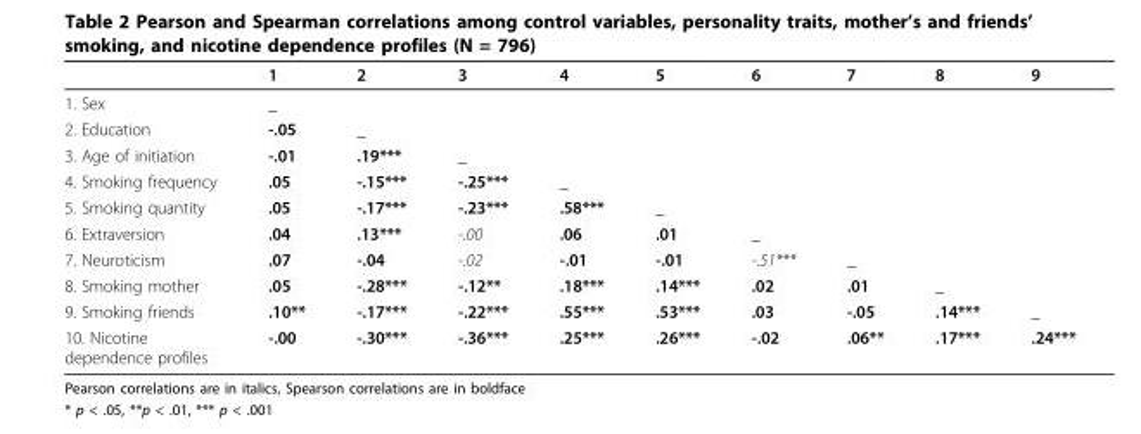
<table><thead><tr><td></td><td>1</td><td>2</td><td>3</td><td>4</td><td>5</td><td>6</td><td>7</td><td>8</td><td>9</td></tr></thead><tbody><tr><td>1. Sex</td><td>_</td><td></td><td></td><td></td><td></td><td></td><td></td><td></td><td></td></tr><tr><td>2. Education</td><td>-.05</td><td>_</td><td></td><td></td><td></td><td></td><td></td><td></td><td></td></tr><tr><td>3. Age of initiation</td><td>-.01</td><td>.19***</td><td>_</td><td></td><td></td><td></td><td></td><td></td><td></td></tr><tr><td>4. Smoking frequency</td><td>.05</td><td>-.15***</td><td>-.25***</td><td>_</td><td></td><td></td><td></td><td></td><td></td></tr><tr><td>5. Smoking quantity</td><td>.05</td><td>-.17***</td><td>-.23***</td><td>.58***</td><td>_</td><td></td><td></td><td></td><td></td></tr><tr><td>6. Extraversion</td><td>.04</td><td>.13***</td><td>-.00</td><td>.06</td><td>.01</td><td>_</td><td></td><td></td><td></td></tr><tr><td>7. Neuroticism</td><td>.07</td><td>-.04</td><td>-.02</td><td>-.01</td><td>-.01</td><td>-.51***</td><td>_</td><td></td><td></td></tr><tr><td>8. Smoking mother</td><td>.05</td><td>-.28***</td><td>-.12**</td><td>.18***</td><td>.14***</td><td>.02</td><td>.01</td><td>_</td><td></td></tr><tr><td>9. Smoking friends</td><td>.10**</td><td>-.17***</td><td>-.22***</td><td>.55***</td><td>.53***</td><td>.03</td><td>-.05</td><td>.14***</td><td>_</td></tr><tr><td>10. Nicotine dependence profiles</td><td>-.00</td><td>-.30***</td><td>-.36***</td><td>.25***</td><td>.26***</td><td>-.02</td><td>.06**</td><td>.17***</td><td>.24***</td></tr></tbody></table>